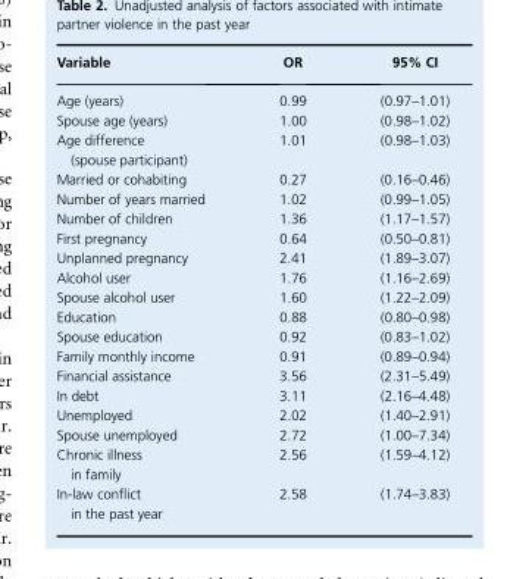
<table><thead><tr><td>Variable</td><td>OR</td><td>95% CI</td></tr></thead><tbody><tr><td>Age (years)</td><td>0.99</td><td>(0.97–1.01)</td></tr><tr><td>Spouse age (years)</td><td>1.00</td><td>(0.98–1.02)</td></tr><tr><td>Age difference (spouse participant)</td><td>1.01</td><td>(0.98–1.03)</td></tr><tr><td>Married or cohabiting</td><td>0.27</td><td>(0.16–0.46)</td></tr><tr><td>Number of years married</td><td>1.02</td><td>(0.99–1.05)</td></tr><tr><td>Number of children</td><td>1.36</td><td>(1.17–1.57)</td></tr><tr><td>First pregnancy</td><td>0.64</td><td>(0.50–0.81)</td></tr><tr><td>Unplanned pregnancy</td><td>2.41</td><td>(1.89–3.07)</td></tr><tr><td>Alcohol user</td><td>1.76</td><td>(1.16–2.69)</td></tr><tr><td>Spouse alcohol user</td><td>1.60</td><td>(1.22–2.09)</td></tr><tr><td>Education</td><td>0.88</td><td>(0.80–0.98)</td></tr><tr><td>Spouse education</td><td>0.92</td><td>(0.83–1.02)</td></tr><tr><td>Family monthly income</td><td>0.91</td><td>(0.89–0.94)</td></tr><tr><td>Financial assistance</td><td>3.56</td><td>(2.31–5.49)</td></tr><tr><td>In debt</td><td>3.11</td><td>(2.16–4.48)</td></tr><tr><td>Unemployed</td><td>2.02</td><td>(1.40–2.91)</td></tr><tr><td>Spouse unemployed</td><td>2.72</td><td>(1.00–7.34)</td></tr><tr><td>Chronic illness in family</td><td>2.56</td><td>(1.59–4.12)</td></tr><tr><td>In-law conflict in the past year</td><td>2.58</td><td>(1.74–3.83)</td></tr></tbody></table>